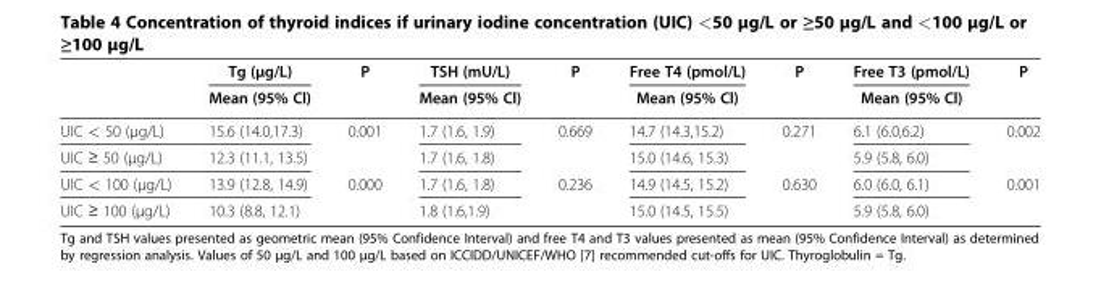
<table><thead><tr><td rowspan="2"></td><td rowspan="2">Tg (μg/L) Mean (95% Cl)</td><td rowspan="2">P</td><td rowspan="2">TSH (mU/L) Mean (95% Cl)</td><td rowspan="2">P</td><td rowspan="2">Free T4 (pmol/L) Mean (95% Cl)</td><td rowspan="2">P</td><td rowspan="2">Free T3 (pmol/L) Mean (95% Cl)</td><td rowspan="2">P</td></tr><tr></tr></thead><tbody><tr><td>UIC &lt; 50 (μg/L)</td><td>15.6 (14.0,17.3)</td><td>0.001</td><td>1.7 (1.6, 1.9)</td><td>0.669</td><td>14.7 (14.3,15.2)</td><td>0.271</td><td>6.1 (6.0,6.2)</td><td>0.002</td></tr><tr><td>UIC ≥ 50 (μg/L)</td><td>12.3 (11.1, 13.5)</td><td></td><td>1.7 (1.6, 1.8)</td><td></td><td>15.0 (14.6, 15.3)</td><td></td><td>5.9 (5.8, 6.0)</td><td></td></tr><tr><td>UIC &lt; 100 (μg/L)</td><td>13.9 (12.8, 14.9)</td><td>0.000</td><td>1.7 (1.6, 1.8)</td><td>0.236</td><td>14.9 (14.5, 15.2)</td><td>0.630</td><td>6.0 (6.0, 6.1)</td><td>0.001</td></tr><tr><td>UIC ≥ 100 (μg/L)</td><td>10.3 (8.8, 12.1)</td><td></td><td>1.8 (1.6,1.9)</td><td></td><td>15.0 (14.5, 15.5)</td><td></td><td>5.9 (5.8, 6.0)</td><td></td></tr></tbody></table>